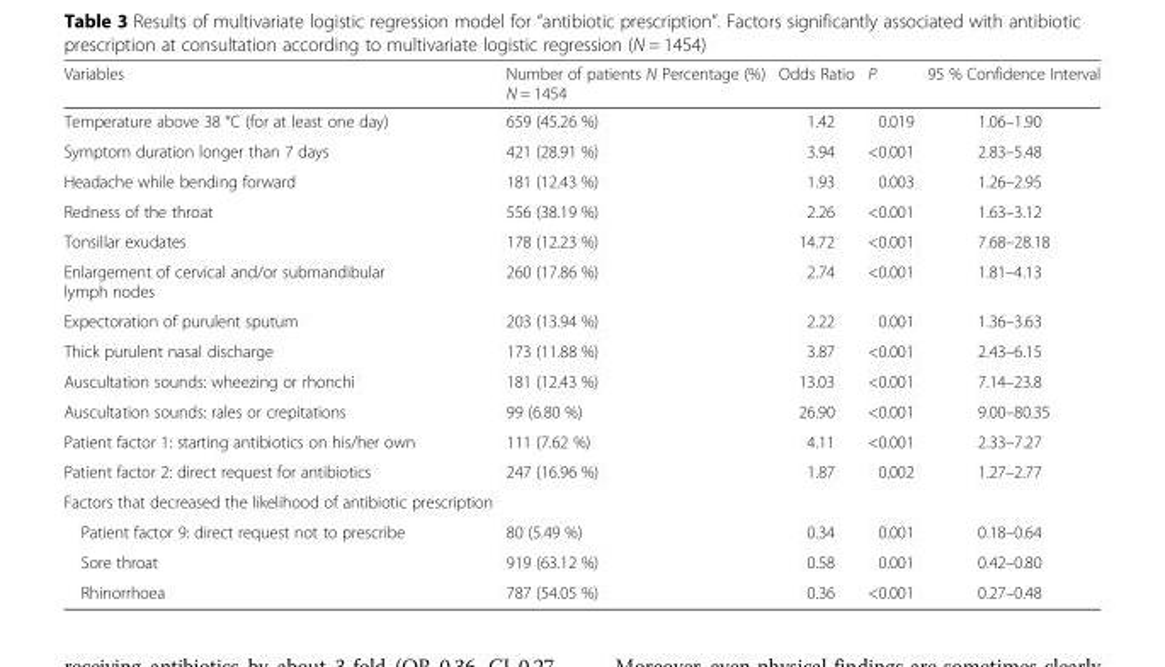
<table><thead><tr><td>Variables</td><td>Number of patients N Percentage (%) N = 1454</td><td>Odds Ratio</td><td>P</td><td>95 % Confidence Interval</td></tr></thead><tbody><tr><td>Temperature above 38 °C (for at least one day)</td><td>659 (45.26 %)</td><td>1.42</td><td>0.019</td><td>1.06–1.90</td></tr><tr><td>Symptom duration longer than 7 days</td><td>421 (28.91 %)</td><td>3.94</td><td>&lt;0.001</td><td>2.83–5.48</td></tr><tr><td>Headache while bending forward</td><td>181 (12.43 %)</td><td>1.93</td><td>0.003</td><td>1.26–2.95</td></tr><tr><td>Redness of the throat</td><td>556 (38.19 %)</td><td>2.26</td><td>&lt;0.001</td><td>1.63–3.12</td></tr><tr><td>Tonsillar exudates</td><td>178 (12.23 %)</td><td>14.72</td><td>&lt;0.001</td><td>7.68–28.18</td></tr><tr><td>Enlargement of cervical and/or submandibular lymph nodes</td><td>260 (17.86 %)</td><td>2.74</td><td>&lt;0.001</td><td>1.81–4.13</td></tr><tr><td>Expectoration of purulent sputum</td><td>203 (13.94 %)</td><td>2.22</td><td>0.001</td><td>1.36–3.63</td></tr><tr><td>Thick purulent nasal discharge</td><td>173 (11.88 %)</td><td>3.87</td><td>&lt;0.001</td><td>2.43–6.15</td></tr><tr><td>Auscultation sounds: wheezing or rhonchi</td><td>181 (12.43 %)</td><td>13.03</td><td>&lt;0.001</td><td>7.14–23.8</td></tr><tr><td>Auscultation sounds: rales or crepitations</td><td>99 (6.80 %)</td><td>26.90</td><td>&lt;0.001</td><td>9.00–80.35</td></tr><tr><td>Patient factor 1: starting antibiotics on his/her own</td><td>111 (7.62 %)</td><td>4.11</td><td>&lt;0.001</td><td>2.33–7.27</td></tr><tr><td>Patient factor 2: direct request for antibiotics</td><td>247 (16.96 %)</td><td>1.87</td><td>0.002</td><td>1.27–2.77</td></tr><tr><td colspan="5">Factors that decreased the likelihood of antibiotic prescription</td></tr><tr><td>Patient factor 9: direct request not to prescribe</td><td>80 (5.49 %)</td><td>0.34</td><td>0.001</td><td>0.18–0.64</td></tr><tr><td>Sore throat</td><td>919 (63.12 %)</td><td>0.58</td><td>0.001</td><td>0.42–0.80</td></tr><tr><td>Rhinorrhoea</td><td>787 (54.05 %)</td><td>0.36</td><td>&lt;0.001</td><td>0.27–0.48</td></tr></tbody></table>